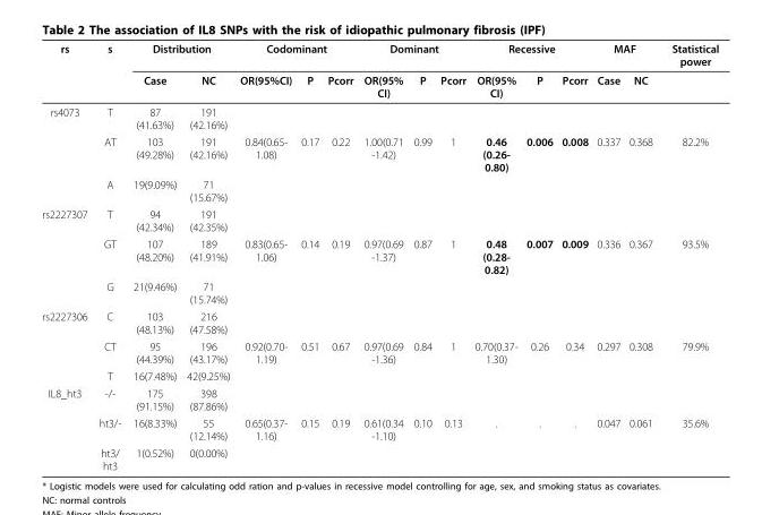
<table><thead><tr><td rowspan="2">rs</td><td rowspan="2">s</td><td colspan="2">Distribution</td><td colspan="3">Codominant</td><td colspan="3">Dominant</td><td colspan="3">Recessive</td><td colspan="2">MAF</td><td rowspan="2">Statistical power</td></tr><tr><td>Case</td><td>NC</td><td>OR(95%CI)</td><td>P</td><td>Pcorr</td><td>OR(95% CI)</td><td>P</td><td>Pcorr</td><td>OR(95% CI)</td><td>P</td><td>Pcorr</td><td>Case</td><td>NC</td></tr></thead><tbody><tr><td rowspan="3">rs4073</td><td>T</td><td>87 (41.63%)</td><td>191 (42.16%)</td><td></td><td></td><td></td><td></td><td></td><td></td><td></td><td></td><td></td><td></td><td></td><td></td></tr><tr><td>AT</td><td>103 (49.28%)</td><td>191 (42.16%)</td><td>0.84(0.65- 1.08)</td><td>0.17</td><td>0.22</td><td>1.00(0.71 -1.42)</td><td>0.99</td><td>1</td><td>0.46 (0.26- 0.80)</td><td>0.006</td><td>0.008</td><td>0.337</td><td>0.368</td><td>82.2%</td></tr><tr><td>A</td><td>19(9.09%)</td><td>71 (15.67%)</td><td></td><td></td><td></td><td></td><td></td><td></td><td></td><td></td><td></td><td></td><td></td><td></td></tr><tr><td rowspan="3">rs2227307</td><td>T</td><td>94 (42.34%)</td><td>191 (42.35%)</td><td></td><td></td><td></td><td></td><td></td><td></td><td></td><td></td><td></td><td></td><td></td><td></td></tr><tr><td>GT</td><td>107 (48.20%)</td><td>189 (41.91%)</td><td>0.83(0.65- 1.06)</td><td>0.14</td><td>0.19</td><td>0.97(0.69 -1.37)</td><td>0.87</td><td>1</td><td>0.48 (0.28- 0.82)</td><td>0.007</td><td>0.009</td><td>0.336</td><td>0.367</td><td>93.5%</td></tr><tr><td>G</td><td>21(9.46%)</td><td>71 (15.74%)</td><td></td><td></td><td></td><td></td><td></td><td></td><td></td><td></td><td></td><td></td><td></td><td></td></tr><tr><td rowspan="3">rs2227306</td><td>C</td><td>103 (48.13%)</td><td>216 (47.58%)</td><td></td><td></td><td></td><td></td><td></td><td></td><td></td><td></td><td></td><td></td><td></td><td></td></tr><tr><td>CT</td><td>95 (44.39%)</td><td>196 (43.17%)</td><td>0.92(0.70- 1.19)</td><td>0.51</td><td>0.67</td><td>0.97(0.69 -1.36)</td><td>0.84</td><td>1</td><td>0.70(0.37- 1.30)</td><td>0.26</td><td>0.34</td><td>0.297</td><td>0.308</td><td>79.9%</td></tr><tr><td>T</td><td>16(7.48%)</td><td>42(9.25%)</td><td></td><td></td><td></td><td></td><td></td><td></td><td></td><td></td><td></td><td></td><td></td><td></td></tr><tr><td rowspan="3">IL8_ht3</td><td>-/-</td><td>175 (91.15%)</td><td>398 (87.86%)</td><td></td><td></td><td></td><td></td><td></td><td></td><td></td><td></td><td></td><td></td><td></td><td></td></tr><tr><td>ht3/-</td><td>16(8.33%)</td><td>55 (12.14%)</td><td>0.65(0.37- 1.16)</td><td>0.15</td><td>0.19</td><td>0.61(0.34 -1.10)</td><td>0.10</td><td>0.13</td><td>.</td><td>.</td><td>.</td><td>0.047</td><td>0.061</td><td>35.6%</td></tr><tr><td>ht3/ ht3</td><td>1(0.52%)</td><td>0(0.00%)</td><td></td><td></td><td></td><td></td><td></td><td></td><td></td><td></td><td></td><td></td><td></td><td></td></tr></tbody></table>